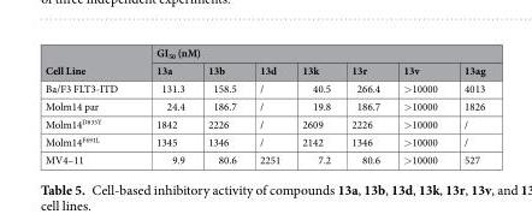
<table><thead><tr><td rowspan="2">Cell Line</td><td colspan="7">GI<sub>50</sub> (nM)</td></tr><tr><td>13a</td><td>13b</td><td>13d</td><td>13k</td><td>13r</td><td>13v</td><td>13ag</td></tr></thead><tbody><tr><td>Ba/F3 FLT3-ITD</td><td>131.3</td><td>158.5</td><td>/</td><td>40.5</td><td>266.4</td><td>&gt;10000</td><td>4013</td></tr><tr><td>Molm14 par</td><td>24.4</td><td>186.7</td><td>/</td><td>19.8</td><td>186.7</td><td>&gt;10000</td><td>1826</td></tr><tr><td>Molm14<sup>D835Y</sup></td><td>1842</td><td>2226</td><td>/</td><td>2609</td><td>2226</td><td>&gt;10000</td><td>/</td></tr><tr><td>Molm14<sup>F691L</sup></td><td>1345</td><td>1346</td><td>/</td><td>2142</td><td>1346</td><td>&gt;10000</td><td>/</td></tr><tr><td>MV4–11</td><td>9.9</td><td>80.6</td><td>2251</td><td>7.2</td><td>80.6</td><td>&gt;10000</td><td>527</td></tr></tbody></table>